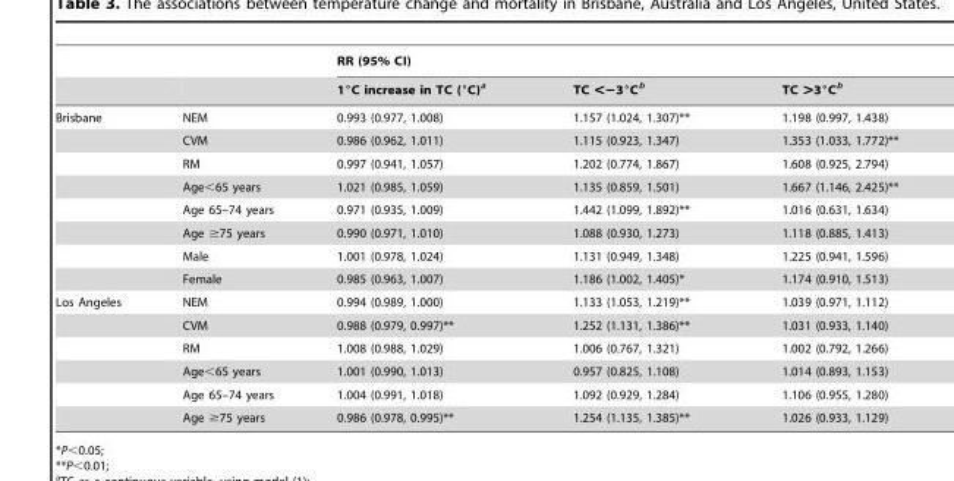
<table><thead><tr><td rowspan="2"></td><td rowspan="2"></td><td colspan="3">RR (95% CI)</td></tr><tr><td>1°C increase in TC (°C)<sup>a</sup></td><td>TC &lt;−3°C<sup>b</sup></td><td>TC &gt;3°C<sup>b</sup></td></tr></thead><tbody><tr><td rowspan="8">Brisbane</td><td>NEM</td><td>0.993 (0.977, 1.008)</td><td>1.157 (1.024, 1.307)**</td><td>1.198 (0.997, 1.438)</td></tr><tr><td>CVM</td><td>0.986 (0.962, 1.011)</td><td>1.115 (0.923, 1.347)</td><td>1.353 (1.033, 1.772)**</td></tr><tr><td>RM</td><td>0.997 (0.941, 1.057)</td><td>1.202 (0.774, 1.867)</td><td>1.608 (0.925, 2.794)</td></tr><tr><td>Age&lt;65 years</td><td>1.021 (0.985, 1.059)</td><td>1.135 (0.859, 1.501)</td><td>1.667 (1.146, 2.425)**</td></tr><tr><td>Age 65–74 years</td><td>0.971 (0.935, 1.009)</td><td>1.442 (1.099, 1.892)**</td><td>1.016 (0.631, 1.634)</td></tr><tr><td>Age ≥75 years</td><td>0.990 (0.971, 1.010)</td><td>1.088 (0.930, 1.273)</td><td>1.118 (0.885, 1.413)</td></tr><tr><td>Male</td><td>1.001 (0.978, 1.024)</td><td>1.131 (0.949, 1.348)</td><td>1.225 (0.941, 1.596)</td></tr><tr><td>Female</td><td>0.985 (0.963, 1.007)</td><td>1.186 (1.002, 1.405)*</td><td>1.174 (0.910, 1.513)</td></tr><tr><td rowspan="6">Los Angeles</td><td>NEM</td><td>0.994 (0.989, 1.000)</td><td>1.133 (1.053, 1.219)**</td><td>1.039 (0.971, 1.112)</td></tr><tr><td>CVM</td><td>0.988 (0.979, 0.997)**</td><td>1.252 (1.131, 1.386)**</td><td>1.031 (0.933, 1.140)</td></tr><tr><td>RM</td><td>1.008 (0.988, 1.029)</td><td>1.006 (0.767, 1.321)</td><td>1.002 (0.792, 1.266)</td></tr><tr><td>Age&lt;65 years</td><td>1.001 (0.990, 1.013)</td><td>0.957 (0.825, 1.108)</td><td>1.014 (0.893, 1.153)</td></tr><tr><td>Age 65–74 years</td><td>1.004 (0.991, 1.018)</td><td>1.092 (0.929, 1.284)</td><td>1.106 (0.955, 1.280)</td></tr><tr><td>Age ≥75 years</td><td>0.986 (0.978, 0.995)**</td><td>1.254 (1.135, 1.385)**</td><td>1.026 (0.933, 1.129)</td></tr></tbody></table>